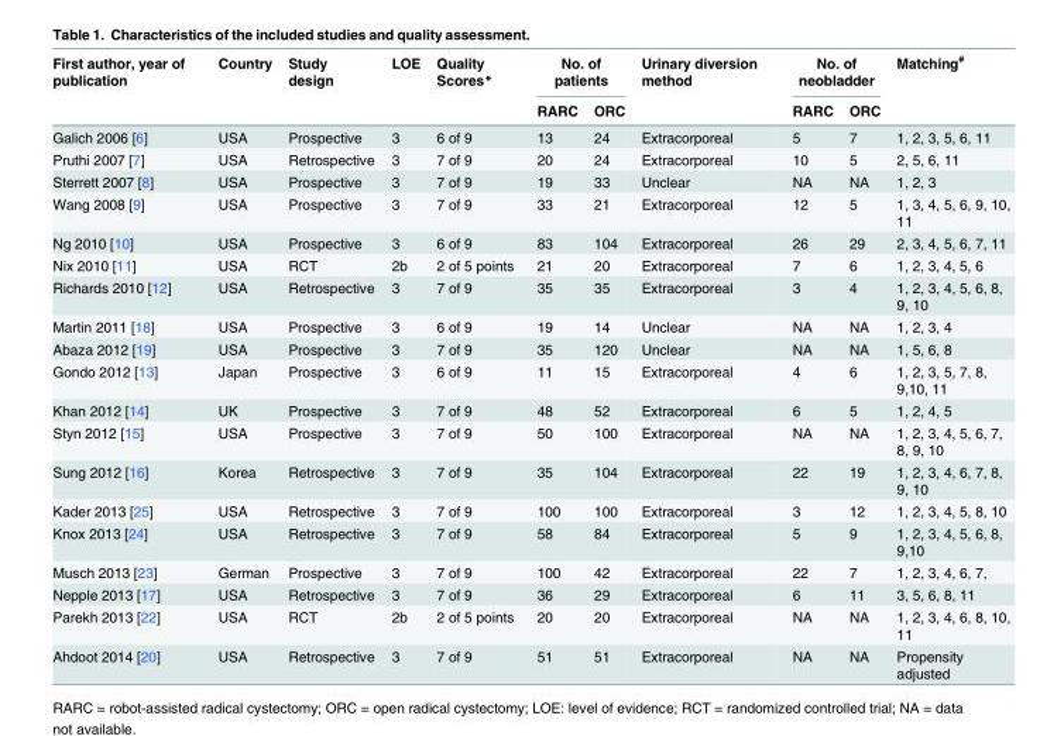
<table><thead><tr><td rowspan="2">First author, year of publication</td><td rowspan="2">Country</td><td rowspan="2">Study design</td><td rowspan="2">LOE</td><td rowspan="2">Quality Scores*</td><td colspan="2">No. of patients</td><td rowspan="2">Urinary diversion method</td><td colspan="2">No. of neobladder</td><td rowspan="2">Matching<sup>#</sup></td></tr><tr><td>RARC</td><td>ORC</td><td>RARC</td><td>ORC</td></tr></thead><tbody><tr><td>Galich 2006 [6]</td><td>USA</td><td>Prospective</td><td>3</td><td>6 of 9</td><td>13</td><td>24</td><td>Extracorporeal</td><td>5</td><td>7</td><td>1, 2, 3, 5, 6, 11</td></tr><tr><td>Pruthi 2007 [7]</td><td>USA</td><td>Retrospective</td><td>3</td><td>7 of 9</td><td>20</td><td>24</td><td>Extracorporeal</td><td>10</td><td>5</td><td>2, 5, 6, 11</td></tr><tr><td>Sterrett 2007 [8]</td><td>USA</td><td>Prospective</td><td>3</td><td>7 of 9</td><td>19</td><td>33</td><td>Unclear</td><td>NA</td><td>NA</td><td>1, 2, 3</td></tr><tr><td>Wang 2008 [9]</td><td>USA</td><td>Prospective</td><td>3</td><td>7 of 9</td><td>33</td><td>21</td><td>Extracorporeal</td><td>12</td><td>5</td><td>1, 3, 4, 5, 6, 9, 10, 11</td></tr><tr><td>Ng 2010 [10]</td><td>USA</td><td>Prospective</td><td>3</td><td>6 of 9</td><td>83</td><td>104</td><td>Extracorporeal</td><td>26</td><td>29</td><td>2, 3, 4, 5, 6, 7, 11</td></tr><tr><td>Nix 2010 [11]</td><td>USA</td><td>RCT</td><td>2b</td><td>2 of 5 points</td><td>21</td><td>20</td><td>Extracorporeal</td><td>7</td><td>6</td><td>1, 2, 3, 4, 5, 6</td></tr><tr><td>Richards 2010 [12]</td><td>USA</td><td>Retrospective</td><td>3</td><td>7 of 9</td><td>35</td><td>35</td><td>Extracorporeal</td><td>3</td><td>4</td><td>1, 2, 3, 4, 5, 6, 8, 9, 10</td></tr><tr><td>Martin 2011 [18]</td><td>USA</td><td>Prospective</td><td>3</td><td>6 of 9</td><td>19</td><td>14</td><td>Unclear</td><td>NA</td><td>NA</td><td>1, 2, 3, 4</td></tr><tr><td>Abaza 2012 [19]</td><td>USA</td><td>Prospective</td><td>3</td><td>7 of 9</td><td>35</td><td>120</td><td>Unclear</td><td>NA</td><td>NA</td><td>1, 5, 6, 8</td></tr><tr><td>Gondo 2012 [13]</td><td>Japan</td><td>Prospective</td><td>3</td><td>6 of 9</td><td>11</td><td>15</td><td>Extracorporeal</td><td>4</td><td>6</td><td>1, 2, 3, 5, 7, 8, 9,10, 11</td></tr><tr><td>Khan 2012 [14]</td><td>UK</td><td>Prospective</td><td>3</td><td>7 of 9</td><td>48</td><td>52</td><td>Extracorporeal</td><td>6</td><td>5</td><td>1, 2, 4, 5</td></tr><tr><td>Styn 2012 [15]</td><td>USA</td><td>Prospective</td><td>3</td><td>7 of 9</td><td>50</td><td>100</td><td>Extracorporeal</td><td>NA</td><td>NA</td><td>1, 2, 3, 4, 5, 6, 7, 8, 9, 10</td></tr><tr><td>Sung 2012 [16]</td><td>Korea</td><td>Retrospective</td><td>3</td><td>7 of 9</td><td>35</td><td>104</td><td>Extracorporeal</td><td>22</td><td>19</td><td>1, 2, 3, 4, 6, 7, 8, 9, 10</td></tr><tr><td>Kader 2013 [25]</td><td>USA</td><td>Retrospective</td><td>3</td><td>7 of 9</td><td>100</td><td>100</td><td>Extracorporeal</td><td>3</td><td>12</td><td>1, 2, 3, 4, 5, 8, 10</td></tr><tr><td>Knox 2013 [24]</td><td>USA</td><td>Retrospective</td><td>3</td><td>7 of 9</td><td>58</td><td>84</td><td>Extracorporeal</td><td>5</td><td>9</td><td>1, 2, 3, 4, 5, 6, 8, 9,10</td></tr><tr><td>Musch 2013 [23]</td><td>German</td><td>Prospective</td><td>3</td><td>7 of 9</td><td>100</td><td>42</td><td>Extracorporeal</td><td>22</td><td>7</td><td>1, 2, 3, 4, 6, 7,</td></tr><tr><td>Nepple 2013 [17]</td><td>USA</td><td>Retrospective</td><td>3</td><td>7 of 9</td><td>36</td><td>29</td><td>Extracorporeal</td><td>6</td><td>11</td><td>3, 5, 6, 8, 11</td></tr><tr><td>Parekh 2013 [22]</td><td>USA</td><td>RCT</td><td>2b</td><td>2 of 5 points</td><td>20</td><td>20</td><td>Extracorporeal</td><td>NA</td><td>NA</td><td>1, 2, 3, 4, 6, 8, 10, 11</td></tr><tr><td>Ahdoot 2014 [20]</td><td>USA</td><td>Retrospective</td><td>3</td><td>7 of 9</td><td>51</td><td>51</td><td>Extracorporeal</td><td>NA</td><td>NA</td><td>Propensity adjusted</td></tr></tbody></table>